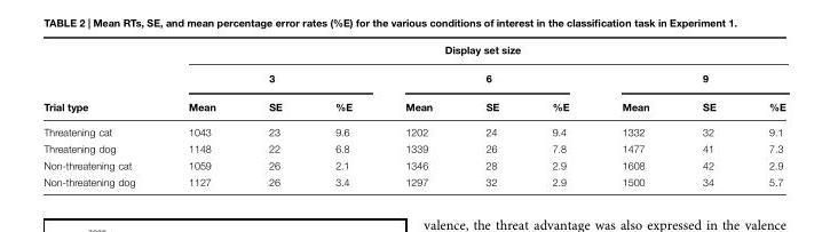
<table><thead><tr><td rowspan="3">Trial type</td><td colspan="9">Display set size</td></tr><tr><td colspan="3">3</td><td colspan="3">6</td><td colspan="3">9</td></tr><tr><td>Mean</td><td>SE</td><td>%E</td><td>Mean</td><td>SE</td><td>%E</td><td>Mean</td><td>SE</td><td>%E</td></tr></thead><tbody><tr><td>Threatening cat</td><td>1043</td><td>23</td><td>9.6</td><td>1202</td><td>24</td><td>9.4</td><td>1332</td><td>32</td><td>9.1</td></tr><tr><td>Threatening dog</td><td>1148</td><td>22</td><td>6.8</td><td>1339</td><td>26</td><td>7.8</td><td>1477</td><td>41</td><td>7.3</td></tr><tr><td>Non-threatening cat</td><td>1059</td><td>26</td><td>2.1</td><td>1346</td><td>28</td><td>2.9</td><td>1608</td><td>42</td><td>2.9</td></tr><tr><td>Non-threatening dog</td><td>1127</td><td>26</td><td>3.4</td><td>1297</td><td>32</td><td>2.9</td><td>1500</td><td>34</td><td>5.7</td></tr></tbody></table>